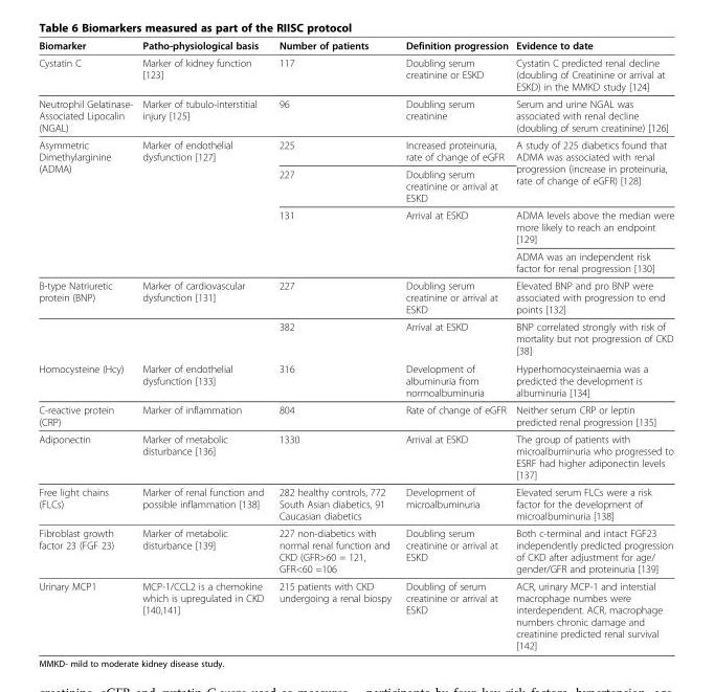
<table><thead><tr><td>Biomarker</td><td>Patho-physiological basis</td><td>Number of patients</td><td>Definition progression</td><td>Evidence to date</td></tr></thead><tbody><tr><td>Cystatin C</td><td>Marker of kidney function [123]</td><td>117</td><td>Doubling serum creatinine or ESKD</td><td>Cystatin C predicted renal decline (doubling of Creatinine or arrival at ESKD) in the MMKD study [124]</td></tr><tr><td>Neutrophil Gelatinase- Associated Lipocalin (NGAL)</td><td>Marker of tubulo-interstitial injury [125]</td><td>96</td><td>Doubling serum creatinine</td><td>Serum and urine NGAL was associated with renal decline (doubling of serum creatinine) [126]</td></tr><tr><td rowspan="4">Asymmetric Dimethylarginine (ADMA)</td><td rowspan="4">Marker of endothelial dysfunction [127]</td><td>225</td><td>Increased proteinuria, rate of change of eGFR</td><td rowspan="2">A study of 225 diabetics found that ADMA was associated with renal progression (increase in proteinuria, rate of change of eGFR) [128]</td></tr><tr><td>227</td><td>Doubling serum creatinine or arrival at ESKD</td></tr><tr><td rowspan="2">131</td><td rowspan="2">Arrival at ESKD</td><td>ADMA levels above the median were more likely to reach an endpoint [129]</td></tr><tr><td>ADMA was an independent risk factor for renal progression [130]</td></tr><tr><td rowspan="2">B-type Natriuretic protein (BNP)</td><td>Marker of cardiovascular dysfunction [131]</td><td>227</td><td>Doubling serum creatinine or arrival at ESKD</td><td>Elevated BNP and pro BNP were associated with progression to end points [132]</td></tr><tr><td></td><td>382</td><td>Arrival at ESKD</td><td>BNP correlated strongly with risk of mortality but not progression of CKD [38]</td></tr><tr><td>Homocysteine (Hcy)</td><td>Marker of endothelial dysfunction [133]</td><td>316</td><td>Development of albuminuria from normoalbuminuria</td><td>Hyperhomocysteinaemia was a predicted the development is albuminuria [134]</td></tr><tr><td>C-reactive protein (CRP)</td><td>Marker of inflammation</td><td>804</td><td>Rate of change of eGFR</td><td>Neither serum CRP or leptin predicted renal progression [135]</td></tr><tr><td>Adiponectin</td><td>Marker of metabolic disturbance [136]</td><td>1330</td><td>Arrival at ESKD</td><td>The group of patients with microalbuminuria who progressed to ESRF had higher adiponectin levels [137]</td></tr><tr><td>Free light chains (FLCs)</td><td>Marker of renal function and possible inflammation [138]</td><td>282 healthy controls, 772 South Asian diabetics, 91 Caucasian diabetics</td><td>Development of microalbuminuria</td><td>Elevated serum FLCs were a risk factor for the development of microalbuminuria [138]</td></tr><tr><td>Fibroblast growth factor 23 (FGF 23)</td><td>Marker of metabolic disturbance [139]</td><td>227 non-diabetics with normal renal function and CKD (GFR&gt;60 = 121, GFR&lt;60 =106</td><td>Doubling serum creatinine or arrival at ESKD</td><td>Both c-terminal and intact FGF23 independently predicted progression of CKD after adjustment for age/ gender/GFR and proteinuria [139]</td></tr><tr><td>Urinary MCP1</td><td>MCP-1/CCL2 is a chemokine which is upregulated in CKD [140,141]</td><td>215 patients with CKD undergoing a renal biospy</td><td>Doubling of serum creatinine or arrival at ESKD</td><td>ACR, urinary MCP-1 and interstial macrophage numbes were interdependent. ACR, macrophage numbers chronic damage and creatinine predicted renal survival [142]</td></tr></tbody></table>